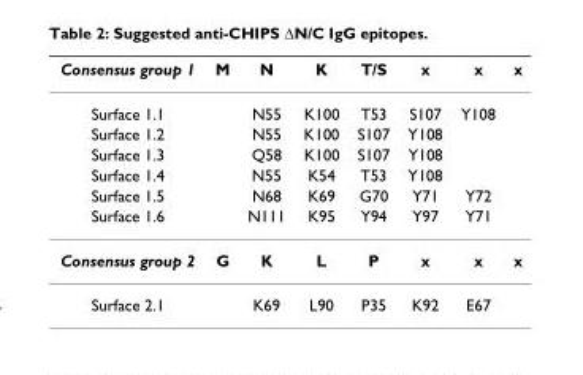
<table><thead><tr><td>Consensus group 1</td><td>M</td><td>N</td><td>K</td><td>T/S</td><td>x</td><td>x</td><td>x</td></tr></thead><tbody><tr><td>Surface 1.1</td><td></td><td>N55</td><td>K100</td><td>T53</td><td>S107</td><td>Y108</td><td></td></tr><tr><td>Surface 1.2</td><td></td><td>N55</td><td>K100</td><td>S107</td><td>Y108</td><td></td><td></td></tr><tr><td>Surface 1.3</td><td></td><td>Q58</td><td>K100</td><td>S107</td><td>Y108</td><td></td><td></td></tr><tr><td>Surface 1.4</td><td></td><td>N55</td><td>K54</td><td>T53</td><td>Y108</td><td></td><td></td></tr><tr><td>Surface 1.5</td><td></td><td>N68</td><td>K69</td><td>G70</td><td>Y71</td><td>Y72</td><td></td></tr><tr><td>Surface 1.6</td><td></td><td>N111</td><td>K95</td><td>Y94</td><td>Y97</td><td>Y71</td><td></td></tr><tr><td>Consensus group 2</td><td>G</td><td>K</td><td>L</td><td>P</td><td>x</td><td>x</td><td>x</td></tr><tr><td>Surface 2.1</td><td></td><td>K69</td><td>L90</td><td>P35</td><td>K92</td><td>E67</td><td></td></tr></tbody></table>